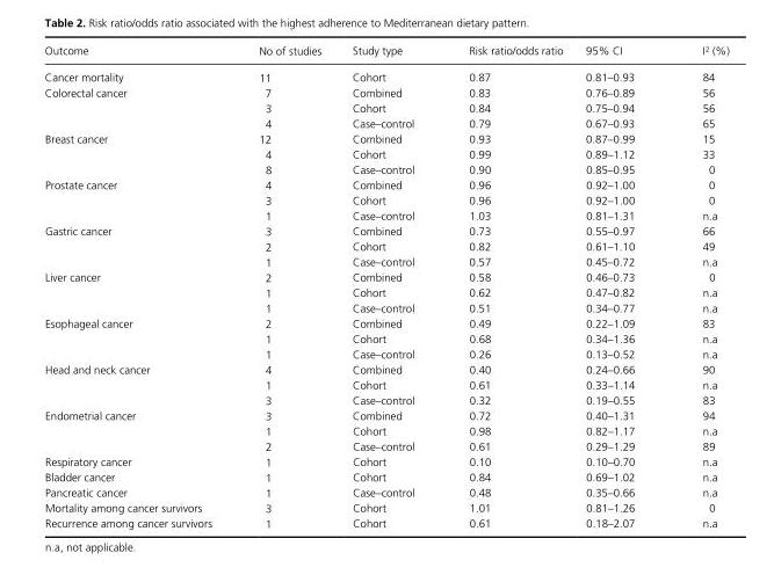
<table><thead><tr><td>Outcome</td><td>No of studies</td><td>Study type</td><td>Risk ratio/odds ratio</td><td>95% CI</td><td>I² (%)</td></tr></thead><tbody><tr><td>Cancer mortality</td><td>11</td><td>Cohort</td><td>0.87</td><td>0.81–0.93</td><td>84</td></tr><tr><td rowspan="3">Colorectal cancer</td><td>7</td><td>Combined</td><td>0.83</td><td>0.76–0.89</td><td>56</td></tr><tr><td>3</td><td>Cohort</td><td>0.84</td><td>0.75–0.94</td><td>56</td></tr><tr><td>4</td><td>Case–control</td><td>0.79</td><td>0.67–0.93</td><td>65</td></tr><tr><td rowspan="3">Breast cancer</td><td>12</td><td>Combined</td><td>0.93</td><td>0.87–0.99</td><td>15</td></tr><tr><td>4</td><td>Cohort</td><td>0.99</td><td>0.89–1.12</td><td>33</td></tr><tr><td>8</td><td>Case–control</td><td>0.90</td><td>0.85–0.95</td><td>0</td></tr><tr><td rowspan="3">Prostate cancer</td><td>4</td><td>Combined</td><td>0.96</td><td>0.92–1.00</td><td>0</td></tr><tr><td>3</td><td>Cohort</td><td>0.96</td><td>0.92–1.00</td><td>0</td></tr><tr><td>1</td><td>Case–control</td><td>1.03</td><td>0.81–1.31</td><td>n.a</td></tr><tr><td rowspan="3">Gastric cancer</td><td>3</td><td>Combined</td><td>0.73</td><td>0.55–0.97</td><td>66</td></tr><tr><td>2</td><td>Cohort</td><td>0.82</td><td>0.61–1.10</td><td>49</td></tr><tr><td>1</td><td>Case–control</td><td>0.57</td><td>0.45–0.72</td><td>n.a</td></tr><tr><td rowspan="3">Liver cancer</td><td>2</td><td>Combined</td><td>0.58</td><td>0.46–0.73</td><td>0</td></tr><tr><td>1</td><td>Cohort</td><td>0.62</td><td>0.47–0.82</td><td>n.a</td></tr><tr><td>1</td><td>Case–control</td><td>0.51</td><td>0.34–0.77</td><td>n.a</td></tr><tr><td rowspan="3">Esophageal cancer</td><td>2</td><td>Combined</td><td>0.49</td><td>0.22–1.09</td><td>83</td></tr><tr><td>1</td><td>Cohort</td><td>0.68</td><td>0.34–1.36</td><td>n.a</td></tr><tr><td>1</td><td>Case–control</td><td>0.26</td><td>0.13–0.52</td><td>n.a</td></tr><tr><td rowspan="3">Head and neck cancer</td><td>4</td><td>Combined</td><td>0.40</td><td>0.24–0.66</td><td>90</td></tr><tr><td>1</td><td>Cohort</td><td>0.61</td><td>0.33–1.14</td><td>n.a</td></tr><tr><td>3</td><td>Case–control</td><td>0.32</td><td>0.19–0.55</td><td>83</td></tr><tr><td rowspan="3">Endometrial cancer</td><td>3</td><td>Combined</td><td>0.72</td><td>0.40–1.31</td><td>94</td></tr><tr><td>1</td><td>Cohort</td><td>0.98</td><td>0.82–1.17</td><td>n.a</td></tr><tr><td>2</td><td>Case–control</td><td>0.61</td><td>0.29–1.29</td><td>89</td></tr><tr><td>Respiratory cancer</td><td>1</td><td>Cohort</td><td>0.10</td><td>0.10–0.70</td><td>n.a</td></tr><tr><td>Bladder cancer</td><td>1</td><td>Cohort</td><td>0.84</td><td>0.69–1.02</td><td>n.a</td></tr><tr><td>Pancreatic cancer</td><td>1</td><td>Case–control</td><td>0.48</td><td>0.35–0.66</td><td>n.a</td></tr><tr><td>Mortality among cancer survivors</td><td>3</td><td>Cohort</td><td>1.01</td><td>0.81–1.26</td><td>0</td></tr><tr><td>Recurrence among cancer survivors</td><td>1</td><td>Cohort</td><td>0.61</td><td>0.18–2.07</td><td>n.a</td></tr></tbody></table>